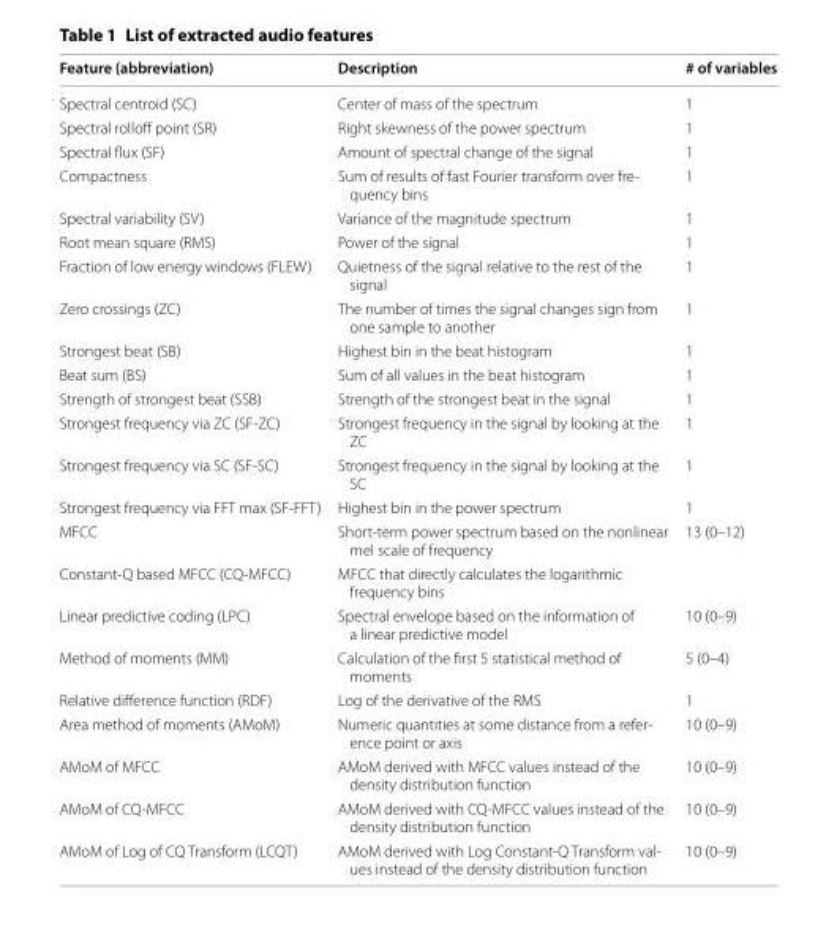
<table><thead><tr><td>Feature (abbreviation)</td><td>Description</td><td># of variables</td></tr></thead><tbody><tr><td>Spectral centroid (SC)</td><td>Center of mass of the spectrum</td><td>1</td></tr><tr><td>Spectral rolloff point (SR)</td><td>Right skewness of the power spectrum</td><td>1</td></tr><tr><td>Spectral flux (SF)</td><td>Amount of spectral change of the signal</td><td>1</td></tr><tr><td>Compactness</td><td>Sum of results of fast Fourier transform over fre‑ quency bins</td><td>1</td></tr><tr><td>Spectral variability (SV)</td><td>Variance of the magnitude spectrum</td><td>1</td></tr><tr><td>Root mean square (RMS)</td><td>Power of the signal</td><td>1</td></tr><tr><td>Fraction of low energy windows (FLEW)</td><td>Quietness of the signal relative to the rest of the signal</td><td>1</td></tr><tr><td>Zero crossings (ZC)</td><td>The number of times the signal changes sign from one sample to another</td><td>1</td></tr><tr><td>Strongest beat (SB)</td><td>Highest bin in the beat histogram</td><td>1</td></tr><tr><td>Beat sum (BS)</td><td>Sum of all values in the beat histogram</td><td>1</td></tr><tr><td>Strength of strongest beat (SSB)</td><td>Strength of the strongest beat in the signal</td><td>1</td></tr><tr><td>Strongest frequency via ZC (SF‑ZC)</td><td>Strongest frequency in the signal by looking at the ZC</td><td>1</td></tr><tr><td>Strongest frequency via SC (SF‑SC)</td><td>Strongest frequency in the signal by looking at the SC</td><td>1</td></tr><tr><td>Strongest frequency via FFT max (SF‑FFT)</td><td>Highest bin in the power spectrum</td><td>1</td></tr><tr><td>MFCC</td><td>Short‑term power spectrum based on the nonlinear mel scale of frequency</td><td>13 (0–12)</td></tr><tr><td>Constant‑Q based MFCC (CQ‑MFCC)</td><td>MFCC that directly calculates the logarithmic frequency bins</td><td></td></tr><tr><td>Linear predictive coding (LPC)</td><td>Spectral envelope based on the information of a linear predictive model</td><td>10 (0–9)</td></tr><tr><td>Method of moments (MM)</td><td>Calculation of the first 5 statistical method of moments</td><td>5 (0–4)</td></tr><tr><td>Relative difference function (RDF)</td><td>Log of the derivative of the RMS</td><td>1</td></tr><tr><td>Area method of moments (AMoM)</td><td>Numeric quantities at some distance from a refer‑ ence point or axis</td><td>10 (0–9)</td></tr><tr><td>AMoM of MFCC</td><td>AMoM derived with MFCC values instead of the density distribution function</td><td>10 (0–9)</td></tr><tr><td>AMoM of CQ‑MFCC</td><td>AMoM derived with CQ‑MFCC values instead of the density distribution function</td><td>10 (0–9)</td></tr><tr><td>AMoM of Log of CQ Transform (LCQT)</td><td>AMoM derived with Log Constant‑Q Transform val‑ ues instead of the density distribution function</td><td>10 (0–9)</td></tr></tbody></table>